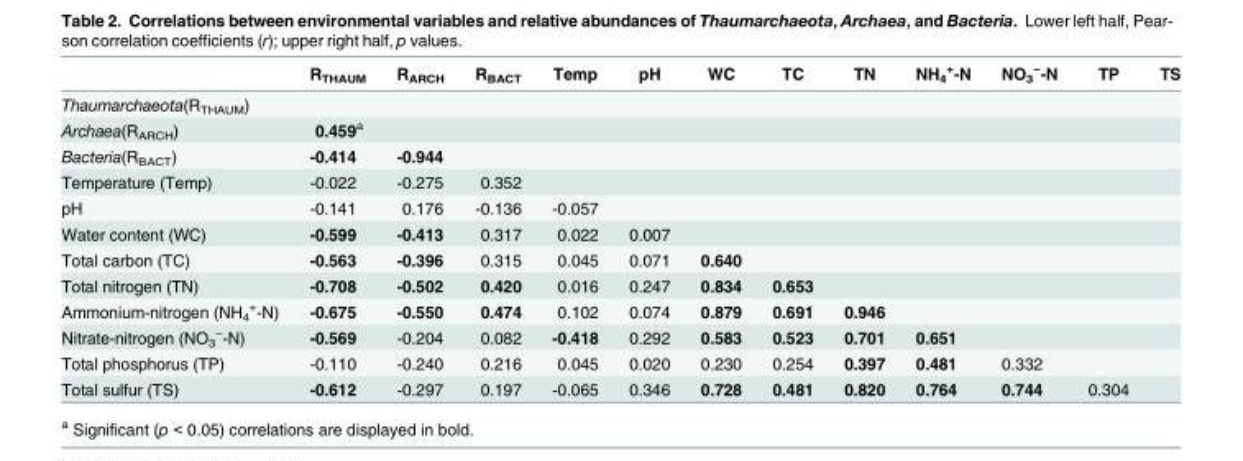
<table><thead><tr><td></td><td>R<sub>THAUM</sub></td><td>R<sub>ARCH</sub></td><td>R<sub>BACT</sub></td><td>Temp</td><td>pH</td><td>WC</td><td>TC</td><td>TN</td><td>NH<sub>4</sub> <sup>+</sup>-N</td><td>NO<sub>3</sub> <sup>−</sup>-N</td><td>TP</td><td>TS</td></tr></thead><tbody><tr><td colspan="13">Thaumarchaeota(R<sub>THAUM</sub>)</td></tr><tr><td>Archaea(R<sub>ARCH</sub>)</td><td>0.459<sup>a</sup></td><td></td><td></td><td></td><td></td><td></td><td></td><td></td><td></td><td></td><td></td><td></td></tr><tr><td>Bacteria(R<sub>BACT</sub>)</td><td>-0.414</td><td>-0.944</td><td></td><td></td><td></td><td></td><td></td><td></td><td></td><td></td><td></td><td></td></tr><tr><td>Temperature (Temp)</td><td>-0.022</td><td>-0.275</td><td>0.352</td><td></td><td></td><td></td><td></td><td></td><td></td><td></td><td></td><td></td></tr><tr><td>pH</td><td>-0.141</td><td>0.176</td><td>-0.136</td><td>-0.057</td><td></td><td></td><td></td><td></td><td></td><td></td><td></td><td></td></tr><tr><td>Water content (WC)</td><td>-0.599</td><td>-0.413</td><td>0.317</td><td>0.022</td><td>0.007</td><td></td><td></td><td></td><td></td><td></td><td></td><td></td></tr><tr><td>Total carbon (TC)</td><td>-0.563</td><td>-0.396</td><td>0.315</td><td>0.045</td><td>0.071</td><td>0.640</td><td></td><td></td><td></td><td></td><td></td><td></td></tr><tr><td>Total nitrogen (TN)</td><td>-0.708</td><td>-0.502</td><td>0.420</td><td>0.016</td><td>0.247</td><td>0.834</td><td>0.653</td><td></td><td></td><td></td><td></td><td></td></tr><tr><td>Ammonium-nitrogen (NH<sub>4</sub> <sup>+</sup>-N)</td><td>-0.675</td><td>-0.550</td><td>0.474</td><td>0.102</td><td>0.074</td><td>0.879</td><td>0.691</td><td>0.946</td><td></td><td></td><td></td><td></td></tr><tr><td>Nitrate-nitrogen (NO<sub>3</sub> <sup>−</sup>-N)</td><td>-0.569</td><td>-0.204</td><td>0.082</td><td>-0.418</td><td>0.292</td><td>0.583</td><td>0.523</td><td>0.701</td><td>0.651</td><td></td><td></td><td></td></tr><tr><td>Total phosphorus (TP)</td><td>-0.110</td><td>-0.240</td><td>0.216</td><td>0.045</td><td>0.020</td><td>0.230</td><td>0.254</td><td>0.397</td><td>0.481</td><td>0.332</td><td></td><td></td></tr><tr><td>Total sulfur (TS)</td><td>-0.612</td><td>-0.297</td><td>0.197</td><td>-0.065</td><td>0.346</td><td>0.728</td><td>0.481</td><td>0.820</td><td>0.764</td><td>0.744</td><td>0.304</td><td></td></tr></tbody></table>